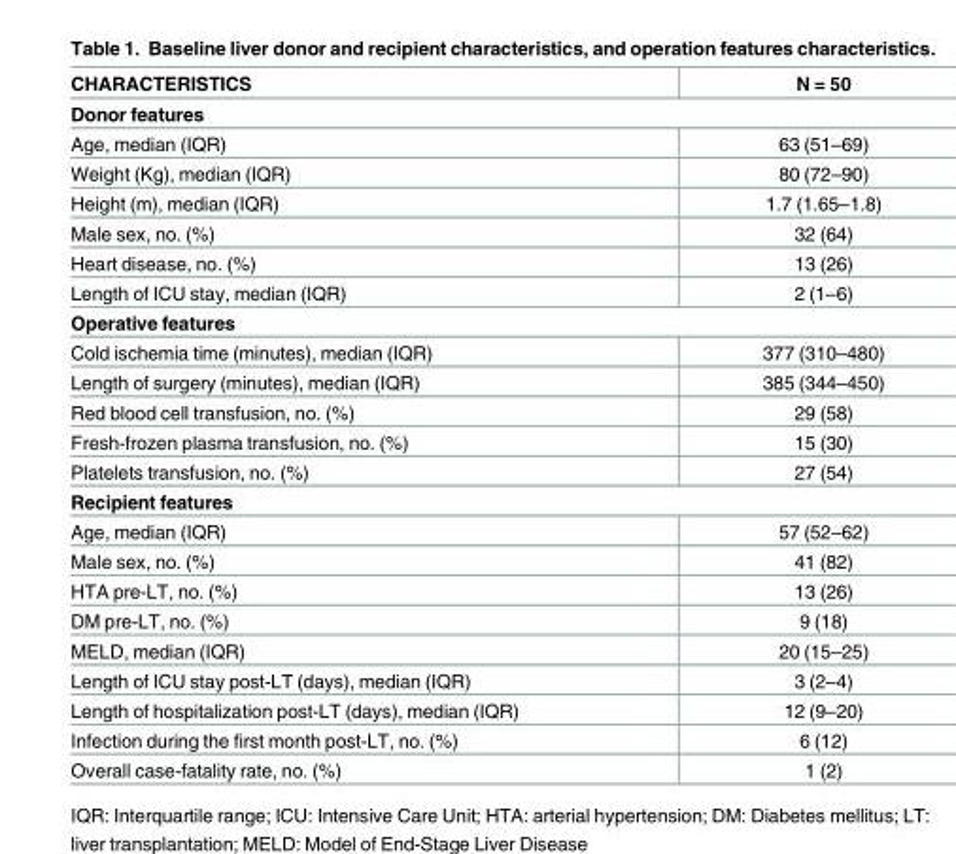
<table><thead><tr><td>CHARACTERISTICS</td><td>N = 50</td></tr></thead><tbody><tr><td colspan="2">Donor features</td></tr><tr><td>Age, median (IQR)</td><td>63 (51–69)</td></tr><tr><td>Weight (Kg), median (IQR)</td><td>80 (72–90)</td></tr><tr><td>Height (m), median (IQR)</td><td>1.7 (1.65–1.8)</td></tr><tr><td>Male sex, no. (%)</td><td>32 (64)</td></tr><tr><td>Heart disease, no. (%)</td><td>13 (26)</td></tr><tr><td>Length of ICU stay, median (IQR)</td><td>2 (1–6)</td></tr><tr><td colspan="2">Operative features</td></tr><tr><td>Cold ischemia time (minutes), median (IQR)</td><td>377 (310–480)</td></tr><tr><td>Length of surgery (minutes), median (IQR)</td><td>385 (344–450)</td></tr><tr><td>Red blood cell transfusion, no. (%)</td><td>29 (58)</td></tr><tr><td>Fresh-frozen plasma transfusion, no. (%)</td><td>15 (30)</td></tr><tr><td>Platelets transfusion, no. (%)</td><td>27 (54)</td></tr><tr><td colspan="2">Recipient features</td></tr><tr><td>Age, median (IQR)</td><td>57 (52–62)</td></tr><tr><td>Male sex, no. (%)</td><td>41 (82)</td></tr><tr><td>HTA pre-LT, no. (%)</td><td>13 (26)</td></tr><tr><td>DM pre-LT, no. (%)</td><td>9 (18)</td></tr><tr><td>MELD, median (IQR)</td><td>20 (15–25)</td></tr><tr><td>Length of ICU stay post-LT (days), median (IQR)</td><td>3 (2–4)</td></tr><tr><td>Length of hospitalization post-LT (days), median (IQR)</td><td>12 (9–20)</td></tr><tr><td>Infection during the first month post-LT, no. (%)</td><td>6 (12)</td></tr><tr><td>Overall case-fatality rate, no. (%)</td><td>1 (2)</td></tr></tbody></table>